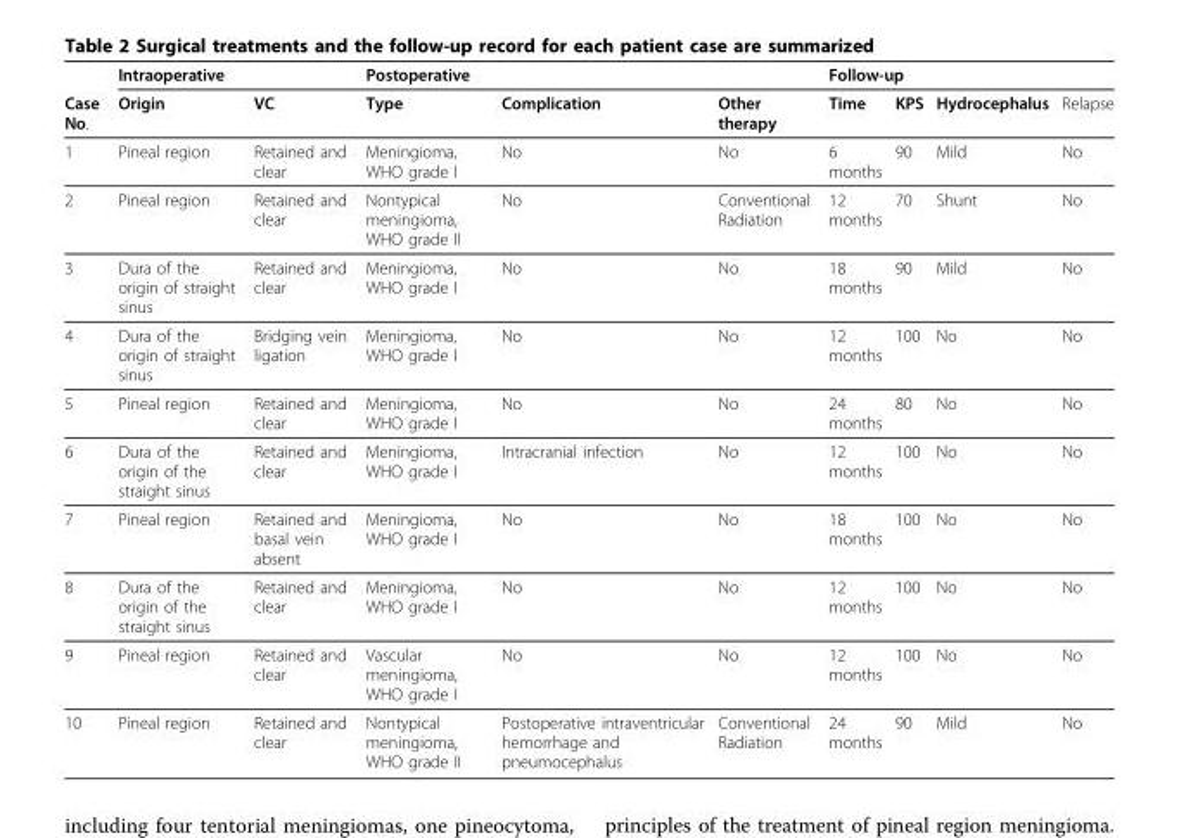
<table><thead><tr><td rowspan="2">Case No.</td><td colspan="2">Intraoperative</td><td colspan="3">Postoperative</td><td colspan="4">Follow-up</td></tr><tr><td>Origin</td><td>VC</td><td>Type</td><td>Complication</td><td>Other therapy</td><td>Time</td><td>KPS</td><td>Hydrocephalus</td><td>Relapse</td></tr></thead><tbody><tr><td>1</td><td>Pineal region</td><td>Retained and clear</td><td>Meningioma, WHO grade I</td><td>No</td><td>No</td><td>6 months</td><td>90</td><td>Mild</td><td>No</td></tr><tr><td>2</td><td>Pineal region</td><td>Retained and clear</td><td>Nontypical meningioma, WHO grade II</td><td>No</td><td>Conventional Radiation</td><td>12 months</td><td>70</td><td>Shunt</td><td>No</td></tr><tr><td>3</td><td>Dura of the origin of straight sinus</td><td>Retained and clear</td><td>Meningioma, WHO grade I</td><td>No</td><td>No</td><td>18 months</td><td>90</td><td>Mild</td><td>No</td></tr><tr><td>4</td><td>Dura of the origin of straight sinus</td><td>Bridging vein ligation</td><td>Meningioma, WHO grade I</td><td>No</td><td>No</td><td>12 months</td><td>100</td><td>No</td><td>No</td></tr><tr><td>5</td><td>Pineal region</td><td>Retained and clear</td><td>Meningioma, WHO grade I</td><td>No</td><td>No</td><td>24 months</td><td>80</td><td>No</td><td>No</td></tr><tr><td>6</td><td>Dura of the origin of the straight sinus</td><td>Retained and clear</td><td>Meningioma, WHO grade I</td><td>Intracranial infection</td><td>No</td><td>12 months</td><td>100</td><td>No</td><td>No</td></tr><tr><td>7</td><td>Pineal region</td><td>Retained and basal vein absent</td><td>Meningioma, WHO grade I</td><td>No</td><td>No</td><td>18 months</td><td>100</td><td>No</td><td>No</td></tr><tr><td>8</td><td>Dura of the origin of the straight sinus</td><td>Retained and clear</td><td>Meningioma, WHO grade I</td><td>No</td><td>No</td><td>12 months</td><td>100</td><td>No</td><td>No</td></tr><tr><td>9</td><td>Pineal region</td><td>Retained and clear</td><td>Vascular meningioma, WHO grade I</td><td>No</td><td>No</td><td>12 months</td><td>100</td><td>No</td><td>No</td></tr><tr><td>10</td><td>Pineal region</td><td>Retained and clear</td><td>Nontypical meningioma, WHO grade II</td><td>Postoperative intraventricular hemorrhage and pneumocephalus</td><td>Conventional Radiation</td><td>24 months</td><td>90</td><td>Mild</td><td>No</td></tr></tbody></table>